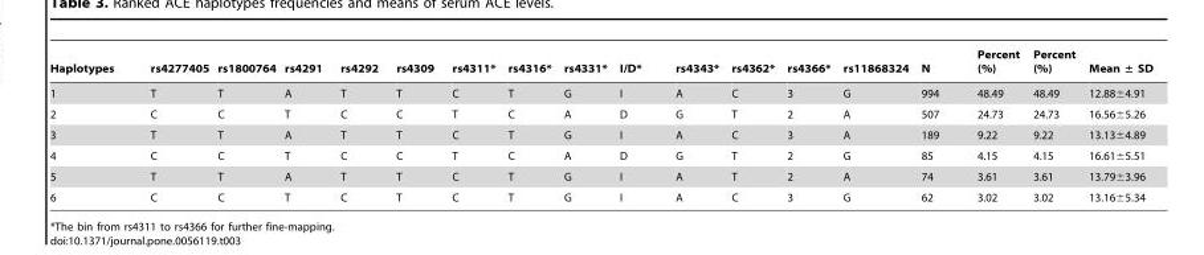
<table><thead><tr><td>Haplotypes</td><td>rs4277405</td><td>rs1800764</td><td>rs4291</td><td>rs4292</td><td>rs4309</td><td>rs4311*</td><td>rs4316*</td><td>rs4331*</td><td>I/D*</td><td>rs4343*</td><td>rs4362*</td><td>rs4366*</td><td>rs11868324</td><td>N</td><td>Percent (%)</td><td>Percent (%)</td><td>Mean ± SD</td></tr></thead><tbody><tr><td>1</td><td>T</td><td>T</td><td>A</td><td>T</td><td>T</td><td>C</td><td>T</td><td>G</td><td>I</td><td>A</td><td>C</td><td>3</td><td>G</td><td>994</td><td>48.49</td><td>48.49</td><td>12.88±4.91</td></tr><tr><td>2</td><td>C</td><td>C</td><td>T</td><td>C</td><td>C</td><td>T</td><td>C</td><td>A</td><td>D</td><td>G</td><td>T</td><td>2</td><td>A</td><td>507</td><td>24.73</td><td>24.73</td><td>16.56±5.26</td></tr><tr><td>3</td><td>T</td><td>T</td><td>A</td><td>T</td><td>T</td><td>C</td><td>T</td><td>G</td><td>I</td><td>A</td><td>C</td><td>3</td><td>A</td><td>189</td><td>9.22</td><td>9.22</td><td>13.13±4.89</td></tr><tr><td>4</td><td>C</td><td>C</td><td>T</td><td>C</td><td>C</td><td>T</td><td>C</td><td>A</td><td>D</td><td>G</td><td>T</td><td>2</td><td>G</td><td>85</td><td>4.15</td><td>4.15</td><td>16.61±5.51</td></tr><tr><td>5</td><td>T</td><td>T</td><td>A</td><td>T</td><td>T</td><td>C</td><td>T</td><td>G</td><td>I</td><td>A</td><td>T</td><td>2</td><td>A</td><td>74</td><td>3.61</td><td>3.61</td><td>13.79±3.96</td></tr><tr><td>6</td><td>C</td><td>C</td><td>T</td><td>C</td><td>T</td><td>C</td><td>T</td><td>G</td><td>I</td><td>A</td><td>C</td><td>3</td><td>G</td><td>62</td><td>3.02</td><td>3.02</td><td>13.16±5.34</td></tr></tbody></table>